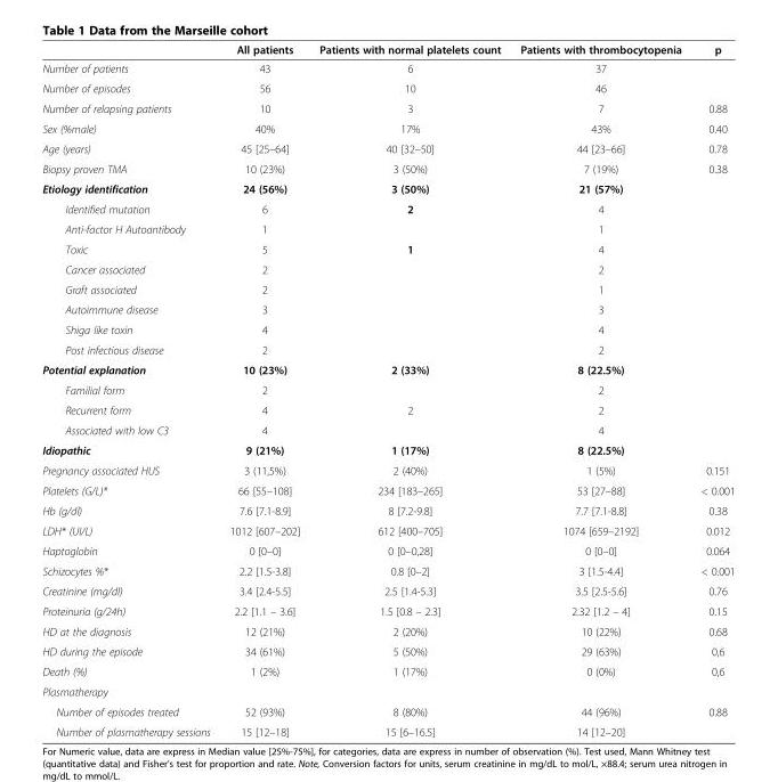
<table><thead><tr><td></td><td>All patients</td><td>Patients with normal platelets count</td><td>Patients with thrombocytopenia</td><td>p</td></tr></thead><tbody><tr><td>Number of patients</td><td>43</td><td>6</td><td>37</td><td></td></tr><tr><td>Number of episodes</td><td>56</td><td>10</td><td>46</td><td></td></tr><tr><td>Number of relapsing patients</td><td>10</td><td>3</td><td>7</td><td>0.88</td></tr><tr><td>Sex (%male)</td><td>40%</td><td>17%</td><td>43%</td><td>0.40</td></tr><tr><td>Age (years)</td><td>45 [25–64]</td><td>40 [32–50]</td><td>44 [23–66]</td><td>0.78</td></tr><tr><td>Biopsy proven TMA</td><td>10 (23%)</td><td>3 (50%)</td><td>7 (19%)</td><td>0.38</td></tr><tr><td>Etiology identification</td><td>24 (56%)</td><td>3 (50%)</td><td>21 (57%)</td><td rowspan="14"></td></tr><tr><td>Identified mutation</td><td>6</td><td>2</td><td>4</td></tr><tr><td>Anti-factor H Autoantibody</td><td>1</td><td></td><td>1</td></tr><tr><td>Toxic</td><td>5</td><td>1</td><td>4</td></tr><tr><td>Cancer associated</td><td>2</td><td></td><td>2</td></tr><tr><td>Graft associated</td><td>2</td><td></td><td>1</td></tr><tr><td>Autoimmune disease</td><td>3</td><td></td><td>3</td></tr><tr><td>Shiga like toxin</td><td>4</td><td></td><td>4</td></tr><tr><td>Post infectious disease</td><td>2</td><td></td><td>2</td></tr><tr><td>Potential explanation</td><td>10 (23%)</td><td>2 (33%)</td><td>8 (22.5%)</td></tr><tr><td>Familial form</td><td>2</td><td></td><td>2</td></tr><tr><td>Recurrent form</td><td>4</td><td>2</td><td>2</td></tr><tr><td>Associated with low C3</td><td>4</td><td></td><td>4</td></tr><tr><td>Idiopathic</td><td>9 (21%)</td><td>1 (17%)</td><td>8 (22.5%)</td></tr><tr><td>Pregnancy associated HUS</td><td>3 (11,5%)</td><td>2 (40%)</td><td>1 (5%)</td><td>0.151</td></tr><tr><td>Platelets (G/L)*</td><td>66 [55–108]</td><td>234 [183–265]</td><td>53 [27–88]</td><td>&lt; 0.001</td></tr><tr><td>Hb (g/dl)</td><td>7.6 [7.1-8.9]</td><td>8 [7.2-9.8]</td><td>7.7 [7.1-8.8]</td><td>0.38</td></tr><tr><td>LDH* (UI/L)</td><td>1012 [607–202]</td><td>612 [400–705]</td><td>1074 [659–2192]</td><td>0.012</td></tr><tr><td>Haptoglobin</td><td>0 [0–0]</td><td>0 [0–0,28]</td><td>0 [0–0]</td><td>0.064</td></tr><tr><td>Schizocytes %*</td><td>2.2 [1.5-3.8]</td><td>0.8 [0–2]</td><td>3 [1.5-4.4]</td><td>&lt; 0.001</td></tr><tr><td>Creatinine (mg/dl)</td><td>3.4 [2.4-5.5]</td><td>2.5 [1.4-5.3]</td><td>3.5 [2.5-5.6]</td><td>0.76</td></tr><tr><td>Proteinuria (g/24h)</td><td>2.2 [1.1 – 3.6]</td><td>1.5 [0.8 – 2.3]</td><td>2.32 [1.2 – 4]</td><td>0.15</td></tr><tr><td>HD at the diagnosis</td><td>12 (21%)</td><td>2 (20%)</td><td>10 (22%)</td><td>0.68</td></tr><tr><td>HD during the episode</td><td>34 (61%)</td><td>5 (50%)</td><td>29 (63%)</td><td>0,6</td></tr><tr><td>Death (%)</td><td>1 (2%)</td><td>1 (17%)</td><td>0 (0%)</td><td>0,6</td></tr><tr><td colspan="5">Plasmatherapy</td></tr><tr><td>Number of episodes treated</td><td>52 (93%)</td><td>8 (80%)</td><td>44 (96%)</td><td>0.88</td></tr><tr><td>Number of plasmatherapy sessions</td><td>15 [12–18]</td><td>15 [6–16.5]</td><td>14 [12–20]</td><td></td></tr></tbody></table>